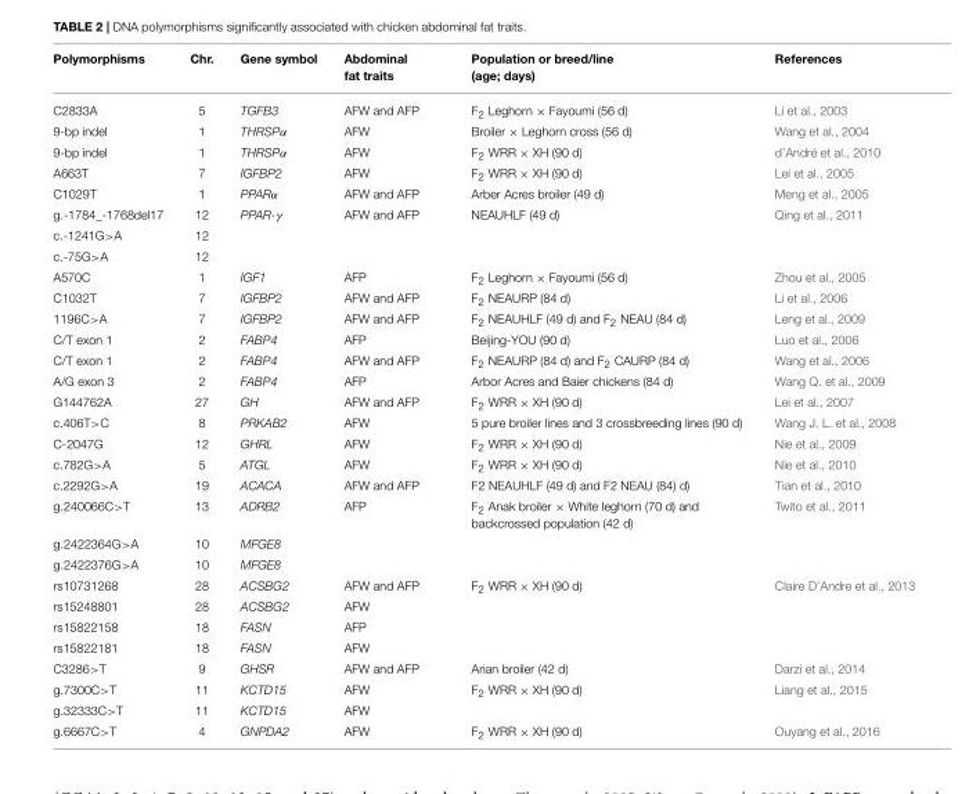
<table><thead><tr><td>Polymorphisms</td><td>Chr.</td><td>Gene symbol</td><td>Abdominal fat traits</td><td>Population or breed/line (age; days)</td><td>References</td></tr></thead><tbody><tr><td>C2833A</td><td>5</td><td>TGFB3</td><td>AFW and AFP</td><td>F<sub>2</sub> Leghorn × Fayoumi (56 d)</td><td>Li et al., 2003</td></tr><tr><td>9-bp indel</td><td>1</td><td>THRSPα</td><td>AFW</td><td>Broiler × Leghorn cross (56 d)</td><td>Wang et al., 2004</td></tr><tr><td>9-bp indel</td><td>1</td><td>THRSPα</td><td>AFW</td><td>F<sub>2</sub> WRR × XH (90 d)</td><td>d’André et al., 2010</td></tr><tr><td>A663T</td><td>7</td><td>IGFBP2</td><td>AFW</td><td>F<sub>2</sub> WRR × XH (90 d)</td><td>Lei et al., 2005</td></tr><tr><td>C1029T</td><td>1</td><td>PPARα</td><td>AFW and AFP</td><td>Arber Acres broiler (49 d)</td><td>Meng et al., 2005</td></tr><tr><td>g.-1784_-1768del17</td><td>12</td><td>PPAR-γ</td><td>AFW and AFP</td><td>NEAUHLF (49 d)</td><td>Qing et al., 2011</td></tr><tr><td>c.-1241G&gt;A</td><td>12</td><td></td><td></td><td></td><td></td></tr><tr><td>c.-75G&gt;A</td><td>12</td><td></td><td></td><td></td><td></td></tr><tr><td>A570C</td><td>1</td><td>IGF1</td><td>AFP</td><td>F<sub>2</sub> Leghorn × Fayoumi (56 d)</td><td>Zhou et al., 2005</td></tr><tr><td>C1032T</td><td>7</td><td>IGFBP2</td><td>AFW and AFP</td><td>F<sub>2</sub> NEAURP (84 d)</td><td>Li et al., 2006</td></tr><tr><td>1196C&gt;A</td><td>7</td><td>IGFBP2</td><td>AFW and AFP</td><td>F<sub>2</sub> NEAUHLF (49 d) and F<sub>2</sub> NEAU (84 d)</td><td>Leng et al., 2009</td></tr><tr><td>C/T exon 1</td><td>2</td><td>FABP4</td><td>AFP</td><td>Beijing-YOU (90 d)</td><td>Luo et al., 2006</td></tr><tr><td>C/T exon 1</td><td>2</td><td>FABP4</td><td>AFW and AFP</td><td>F<sub>2</sub> NEAURP (84 d) and F<sub>2</sub> CAURP (84 d)</td><td>Wang et al., 2006</td></tr><tr><td>A/G exon 3</td><td>2</td><td>FABP4</td><td>AFP</td><td>Arbor Acres and Baier chickens (84 d)</td><td>Wang Q. et al., 2009</td></tr><tr><td>G144762A</td><td>27</td><td>GH</td><td>AFW and AFP</td><td>F<sub>2</sub> WRR × XH (90 d)</td><td>Lei et al., 2007</td></tr><tr><td>c.406T&gt;C</td><td>8</td><td>PRKAB2</td><td>AFW</td><td>5 pure broiler lines and 3 crossbreeding lines (90 d)</td><td>Wang J. L. et al., 2008</td></tr><tr><td>C-2047G</td><td>12</td><td>GHRL</td><td>AFW</td><td>F<sub>2</sub> WRR × XH (90 d)</td><td>Nie et al., 2009</td></tr><tr><td>c.782G&gt;A</td><td>5</td><td>ATGL</td><td>AFW</td><td>F<sub>2</sub> WRR × XH (90 d)</td><td>Nie et al., 2010</td></tr><tr><td>c.2292G&gt;A</td><td>19</td><td>ACACA</td><td>AFW and AFP</td><td>F2 NEAUHLF (49 d) and F2 NEAU (84) d)</td><td>Tian et al., 2010</td></tr><tr><td>g.240066C&gt;T</td><td>13</td><td>ADRB2</td><td>AFP</td><td>F<sub>2</sub> Anak broiler × White leghorn (70 d) and backcrossed population (42 d)</td><td>Twito et al., 2011</td></tr><tr><td>g.2422364G&gt;A</td><td>10</td><td>MFGE8</td><td></td><td></td><td></td></tr><tr><td>g.2422376G&gt;A</td><td>10</td><td>MFGE8</td><td></td><td></td><td></td></tr><tr><td>rs10731268</td><td>28</td><td>ACSBG2</td><td>AFW and AFP</td><td>F<sub>2</sub> WRR × XH (90 d)</td><td>Claire D’Andre et al., 2013</td></tr><tr><td>rs15248801</td><td>28</td><td>ACSBG2</td><td>AFW</td><td></td><td></td></tr><tr><td>rs15822158</td><td>18</td><td>FASN</td><td>AFP</td><td></td><td></td></tr><tr><td>rs15822181</td><td>18</td><td>FASN</td><td>AFW</td><td></td><td></td></tr><tr><td>C3286&gt;T</td><td>9</td><td>GHSR</td><td>AFW and AFP</td><td>Arian broiler (42 d)</td><td>Darzi et al., 2014</td></tr><tr><td>g.7300C&gt;T</td><td>11</td><td>KCTD15</td><td>AFW</td><td>F<sub>2</sub> WRR × XH (90 d)</td><td>Liang et al., 2015</td></tr><tr><td>g.32333C&gt;T</td><td>11</td><td>KCTD15</td><td>AFW</td><td></td><td></td></tr><tr><td>g.6667C&gt;T</td><td>4</td><td>GNPDA2</td><td>AFW</td><td>F<sub>2</sub> WRR × XH (90 d)</td><td>Ouyang et al., 2016</td></tr></tbody></table>